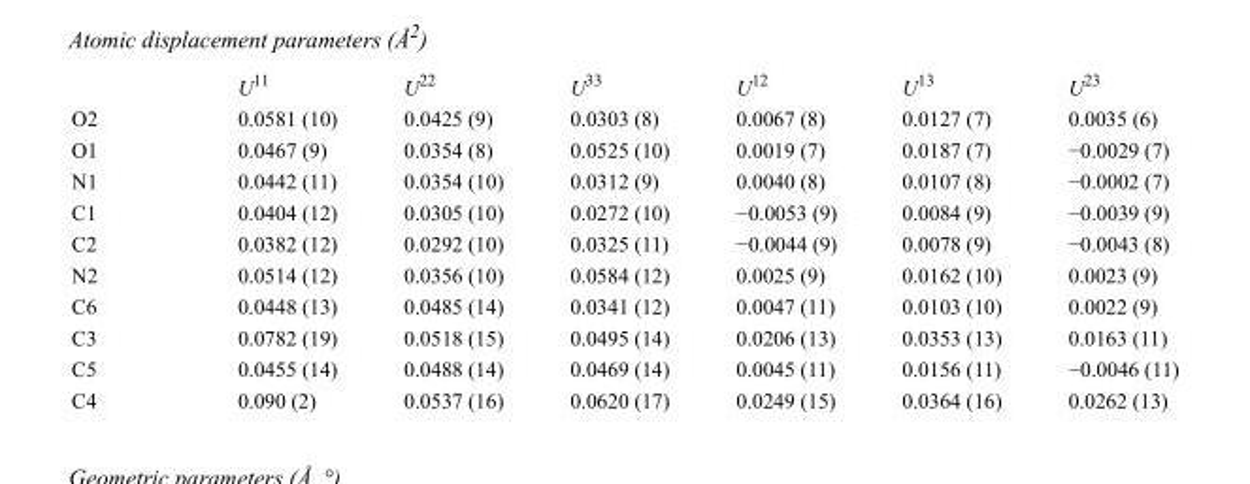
<table><thead><tr><td></td><td>U<sup>11</sup></td><td>U<sup>22</sup></td><td>U<sup>33</sup></td><td>U<sup>12</sup></td><td>U<sup>13</sup></td><td>U<sup>23</sup></td></tr></thead><tbody><tr><td>O2</td><td>0.0581 (10)</td><td>0.0425 (9)</td><td>0.0303 (8)</td><td>0.0067 (8)</td><td>0.0127 (7)</td><td>0.0035 (6)</td></tr><tr><td>O1</td><td>0.0467 (9)</td><td>0.0354 (8)</td><td>0.0525 (10)</td><td>0.0019 (7)</td><td>0.0187 (7)</td><td>−0.0029 (7)</td></tr><tr><td>N1</td><td>0.0442 (11)</td><td>0.0354 (10)</td><td>0.0312 (9)</td><td>0.0040 (8)</td><td>0.0107 (8)</td><td>−0.0002 (7)</td></tr><tr><td>C1</td><td>0.0404 (12)</td><td>0.0305 (10)</td><td>0.0272 (10)</td><td>−0.0053 (9)</td><td>0.0084 (9)</td><td>−0.0039 (9)</td></tr><tr><td>C2</td><td>0.0382 (12)</td><td>0.0292 (10)</td><td>0.0325 (11)</td><td>−0.0044 (9)</td><td>0.0078 (9)</td><td>−0.0043 (8)</td></tr><tr><td>N2</td><td>0.0514 (12)</td><td>0.0356 (10)</td><td>0.0584 (12)</td><td>0.0025 (9)</td><td>0.0162 (10)</td><td>0.0023 (9)</td></tr><tr><td>C6</td><td>0.0448 (13)</td><td>0.0485 (14)</td><td>0.0341 (12)</td><td>0.0047 (11)</td><td>0.0103 (10)</td><td>0.0022 (9)</td></tr><tr><td>C3</td><td>0.0782 (19)</td><td>0.0518 (15)</td><td>0.0495 (14)</td><td>0.0206 (13)</td><td>0.0353 (13)</td><td>0.0163 (11)</td></tr><tr><td>C5</td><td>0.0455 (14)</td><td>0.0488 (14)</td><td>0.0469 (14)</td><td>0.0045 (11)</td><td>0.0156 (11)</td><td>−0.0046 (11)</td></tr><tr><td>C4</td><td>0.090 (2)</td><td>0.0537 (16)</td><td>0.0620 (17)</td><td>0.0249 (15)</td><td>0.0364 (16)</td><td>0.0262 (13)</td></tr></tbody></table>